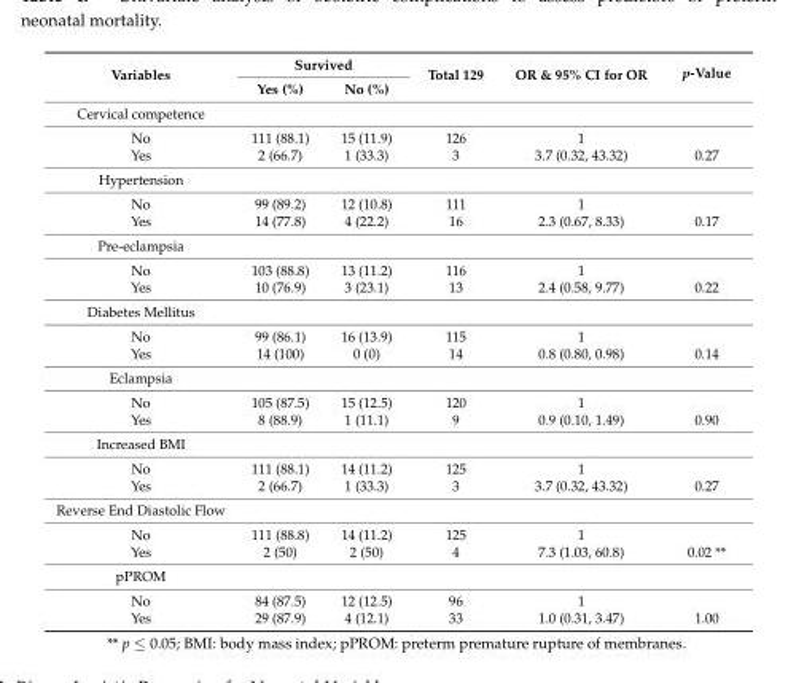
<table><thead><tr><td rowspan="2">Variables</td><td colspan="2">Survived</td><td rowspan="2">Total 129</td><td rowspan="2">OR &amp; 95% CI for OR</td><td rowspan="2">p-Value</td></tr><tr><td>Yes (%)</td><td>No (%)</td></tr></thead><tbody><tr><td colspan="6">Cervical competence</td></tr><tr><td>No</td><td>111 (88.1)</td><td>15 (11.9)</td><td>126</td><td>1</td><td></td></tr><tr><td>Yes</td><td>2 (66.7)</td><td>1 (33.3)</td><td>3</td><td>3.7 (0.32, 43.32)</td><td>0.27</td></tr><tr><td colspan="6">Hypertension</td></tr><tr><td>No</td><td>99 (89.2)</td><td>12 (10.8)</td><td>111</td><td>1</td><td></td></tr><tr><td>Yes</td><td>14 (77.8)</td><td>4 (22.2)</td><td>16</td><td>2.3 (0.67, 8.33)</td><td>0.17</td></tr><tr><td colspan="6">Pre-eclampsia</td></tr><tr><td>No</td><td>103 (88.8)</td><td>13 (11.2)</td><td>116</td><td>1</td><td></td></tr><tr><td>Yes</td><td>10 (76.9)</td><td>3 (23.1)</td><td>13</td><td>2.4 (0.58, 9.77)</td><td>0.22</td></tr><tr><td colspan="6">Diabetes Mellitus</td></tr><tr><td>No</td><td>99 (86.1)</td><td>16 (13.9)</td><td>115</td><td>1</td><td></td></tr><tr><td>Yes</td><td>14 (100)</td><td>0 (0)</td><td>14</td><td>0.8 (0.80, 0.98)</td><td>0.14</td></tr><tr><td colspan="6">Eclampsia</td></tr><tr><td>No</td><td>105 (87.5)</td><td>15 (12.5)</td><td>120</td><td>1</td><td></td></tr><tr><td>Yes</td><td>8 (88.9)</td><td>1 (11.1)</td><td>9</td><td>0.9 (0.10, 1.49)</td><td>0.90</td></tr><tr><td colspan="6">Increased BMI</td></tr><tr><td>No</td><td>111 (88.1)</td><td>14 (11.2)</td><td>125</td><td>1</td><td></td></tr><tr><td>Yes</td><td>2 (66.7)</td><td>1 (33.3)</td><td>3</td><td>3.7 (0.32, 43.32)</td><td>0.27</td></tr><tr><td colspan="6">Reverse End Diastolic Flow</td></tr><tr><td>No</td><td>111 (88.8)</td><td>14 (11.2)</td><td>125</td><td>1</td><td></td></tr><tr><td>Yes</td><td>2 (50)</td><td>2 (50)</td><td>4</td><td>7.3 (1.03, 60.8)</td><td>0.02 **</td></tr><tr><td colspan="6">pPROM</td></tr><tr><td>No</td><td>84 (87.5)</td><td>12 (12.5)</td><td>96</td><td>1</td><td></td></tr><tr><td>Yes</td><td>29 (87.9)</td><td>4 (12.1)</td><td>33</td><td>1.0 (0.31, 3.47)</td><td>1.00</td></tr></tbody></table>